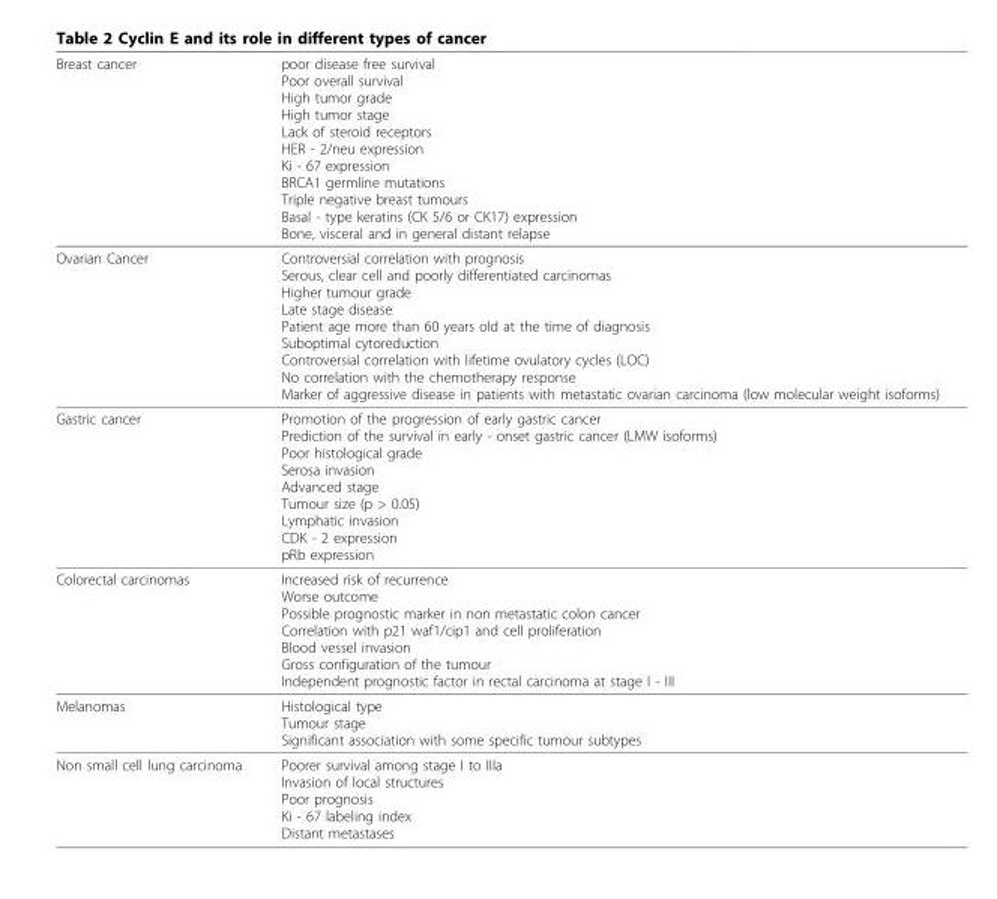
<table><thead><tr><td>Breast cancer</td><td>poor disease free survival Poor overall survival High tumor grade High tumor stage Lack of steroid receptors HER - 2/neu expression Ki - 67 expression BRCA1 germline mutations Triple negative breast tumours Basal - type keratins (CK 5/6 or CK17) expression Bone, visceral and in general distant relapse</td></tr></thead><tbody><tr><td>Ovarian Cancer</td><td>Controversial correlation with prognosis Serous, clear cell and poorly differentiated carcinomas Higher tumour grade Late stage disease Patient age more than 60 years old at the time of diagnosis Suboptimal cytoreduction Controversial correlation with lifetime ovulatory cycles (LOC) No correlation with the chemotherapy response Marker of aggressive disease in patients with metastatic ovarian carcinoma (low molecular weight isoforms)</td></tr><tr><td>Gastric cancer</td><td>Promotion of the progression of early gastric cancer Prediction of the survival in early - onset gastric cancer (LMW isoforms) Poor histological grade Serosa invasion Advanced stage Tumour size (p &gt; 0.05) Lymphatic invasion CDK - 2 expression pRb expression</td></tr><tr><td>Colorectal carcinomas</td><td>Increased risk of recurrence Worse outcome Possible prognostic marker in non metastatic colon cancer Correlation with p21 waf1/cip1 and cell proliferation Blood vessel invasion Gross configuration of the tumour Independent prognostic factor in rectal carcinoma at stage I - III</td></tr><tr><td>Melanomas</td><td>Histological type Tumour stage Significant association with some specific tumour subtypes</td></tr><tr><td>Non small cell lung carcinoma</td><td>Poorer survival among stage I to IIIa Invasion of local structures Poor prognosis Ki - 67 labeling index Distant metastases</td></tr></tbody></table>